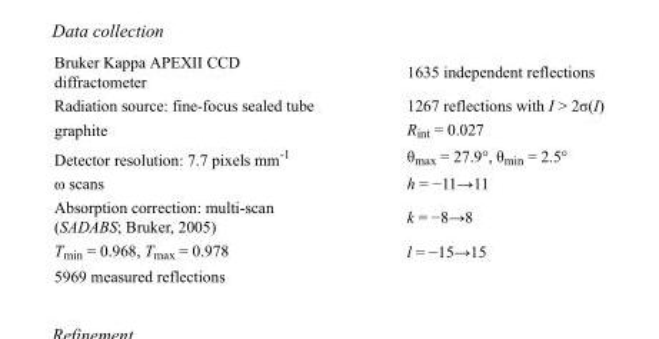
<table><tbody><tr><td>Bruker Kappa APEXII CCD diffractometer</td><td>1635 independent reflections</td></tr><tr><td>Radiation source: fine-focus sealed tube</td><td>1267 reflections with I &gt; 2σ(I)</td></tr><tr><td>graphite</td><td>R<sub>int</sub> = 0.027</td></tr><tr><td>Detector resolution: 7.7 pixels mm<sup>-1</sup></td><td>θ<sub>max</sub> = 27.9°, θ<sub>min</sub> = 2.5°</td></tr><tr><td>ω scans</td><td>h = −11→11</td></tr><tr><td>Absorption correction: multi-scan (SADABS; Bruker, 2005)</td><td>k = −8→8</td></tr><tr><td>T<sub>min</sub> = 0.968, T<sub>max</sub> = 0.978</td><td>l = −15→15</td></tr><tr><td>5969 measured reflections</td><td></td></tr></tbody></table>